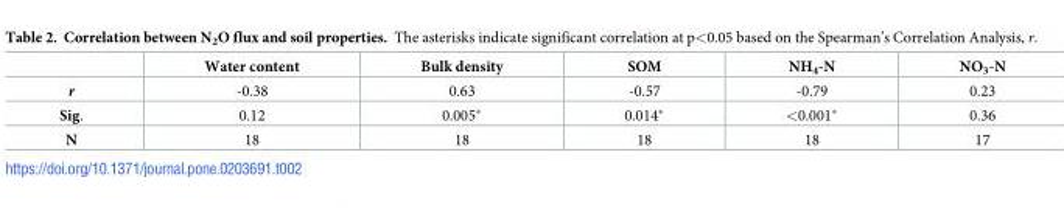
<table><thead><tr><td></td><td>Water content</td><td>Bulk density</td><td>SOM</td><td>NH<sub>4</sub>-N</td><td>NO<sub>3</sub>-N</td></tr></thead><tbody><tr><td>r</td><td>-0.38</td><td>0.63</td><td>-0.57</td><td>-0.79</td><td>0.23</td></tr><tr><td>Sig.</td><td>0.12</td><td>0.005*</td><td>0.014*</td><td>&lt;0.001*</td><td>0.36</td></tr><tr><td>N</td><td>18</td><td>18</td><td>18</td><td>18</td><td>17</td></tr></tbody></table>